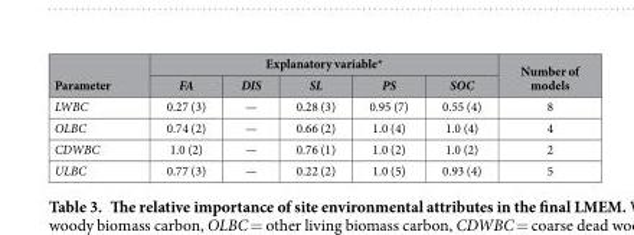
<table><thead><tr><td rowspan="2">Parameter</td><td colspan="5">Explanatory variable*</td><td rowspan="2">Number of models</td></tr><tr><td>FA</td><td>DIS</td><td>SL</td><td>PS</td><td>SOC</td></tr></thead><tbody><tr><td>LWBC</td><td>0.27 (3)</td><td>—</td><td>0.28 (3)</td><td>0.95 (7)</td><td>0.55 (4)</td><td>8</td></tr><tr><td>OLBC</td><td>0.74 (2)</td><td>—</td><td>0.66 (2)</td><td>1.0 (4)</td><td>1.0 (4)</td><td>4</td></tr><tr><td>CDWBC</td><td>1.0 (2)</td><td>—</td><td>0.76 (1)</td><td>1.0 (2)</td><td>1.0 (2)</td><td>2</td></tr><tr><td>ULBC</td><td>0.77 (3)</td><td>—</td><td>0.22 (2)</td><td>1.0 (5)</td><td>0.93 (4)</td><td>5</td></tr></tbody></table>